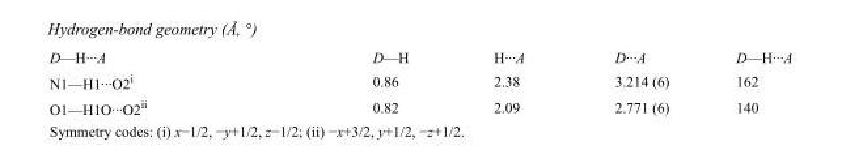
<table><tbody><tr><td>D—H···A</td><td>D—H</td><td>H···A</td><td>D···A</td><td>D—H···A</td></tr><tr><td>N1—H1···O2<sup>i</sup></td><td>0.86</td><td>2.38</td><td>3.214 (6)</td><td>162</td></tr><tr><td>O1—H1O···O2<sup>ii</sup></td><td>0.82</td><td>2.09</td><td>2.771 (6)</td><td>140</td></tr></tbody></table>